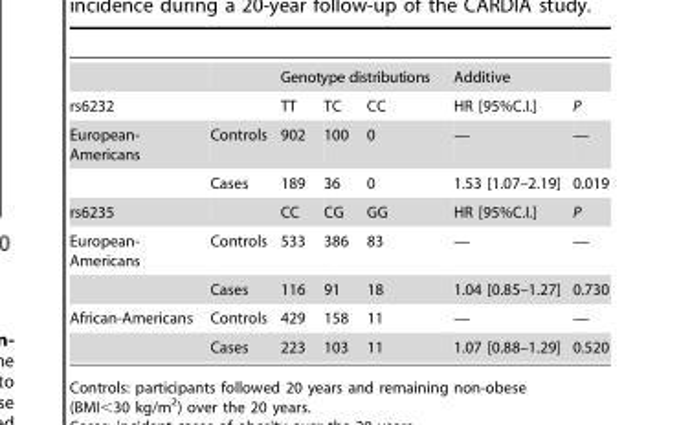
<table><thead><tr><td rowspan="2">rs6232</td><td rowspan="2"></td><td colspan="3">Genotype distributions</td><td colspan="2">Additive</td></tr><tr><td>TT</td><td>TC</td><td>CC</td><td>HR [95%C.I.]</td><td>P</td></tr></thead><tbody><tr><td rowspan="2">European- Americans</td><td>Controls</td><td>902</td><td>100</td><td>0</td><td>—</td><td>—</td></tr><tr><td>Cases</td><td>189</td><td>36</td><td>0</td><td>1.53 [1.07–2.19]</td><td>0.019</td></tr><tr><td>rs6235</td><td></td><td>CC</td><td>CG</td><td>GG</td><td>HR [95%C.I.]</td><td>P</td></tr><tr><td rowspan="2">European- Americans</td><td>Controls</td><td>533</td><td>386</td><td>83</td><td>—</td><td>—</td></tr><tr><td>Cases</td><td>116</td><td>91</td><td>18</td><td>1.04 [0.85–1.27]</td><td>0.730</td></tr><tr><td rowspan="2">African-Americans</td><td>Controls</td><td>429</td><td>158</td><td>11</td><td>—</td><td>—</td></tr><tr><td>Cases</td><td>223</td><td>103</td><td>11</td><td>1.07 [0.88–1.29]</td><td>0.520</td></tr></tbody></table>